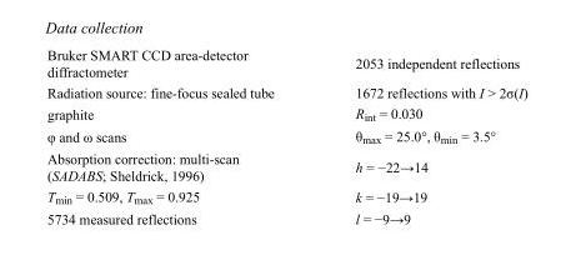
<table><tbody><tr><td>Bruker SMART CCD area-detector diffractometer</td><td>2053 independent reflections</td></tr><tr><td>Radiation source: fine-focus sealed tube</td><td>1672 reflections with I &gt; 2σ(I)</td></tr><tr><td>graphite</td><td>R<sub>int</sub> = 0.030</td></tr><tr><td>φ and ω scans</td><td>θ<sub>max</sub> = 25.0°, θ<sub>min</sub> = 3.5°</td></tr><tr><td>Absorption correction: multi-scan (SADABS; Sheldrick, 1996)</td><td>h = −22→14</td></tr><tr><td>T<sub>min</sub> = 0.509, T<sub>max</sub> = 0.925</td><td>k = −19→19</td></tr><tr><td>5734 measured reflections</td><td>l = −9→9</td></tr></tbody></table>